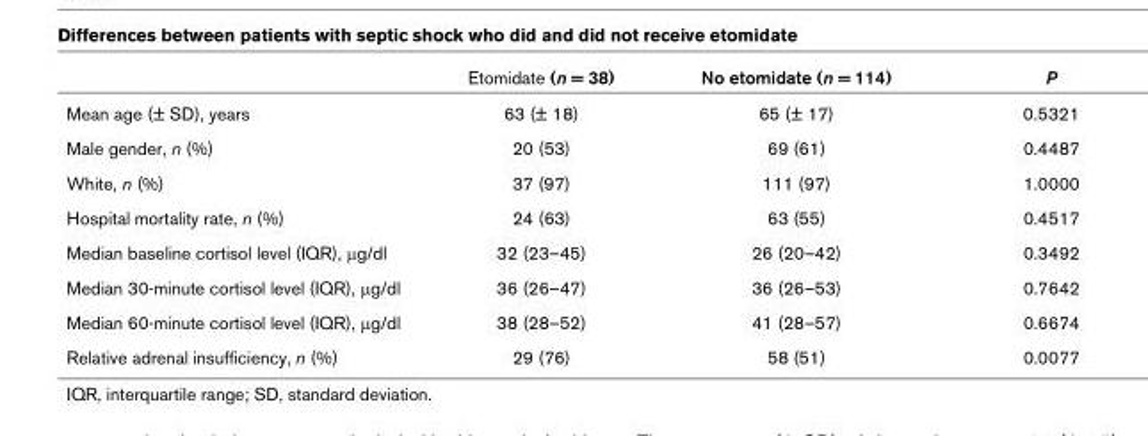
<table><thead><tr><td></td><td>Etomidate (n = 38)</td><td>No etomidate (n = 114)</td><td>P</td></tr></thead><tbody><tr><td>Mean age (± SD), years</td><td>63 (± 18)</td><td>65 (± 17)</td><td>0.5321</td></tr><tr><td>Male gender, n (%)</td><td>20 (53)</td><td>69 (61)</td><td>0.4487</td></tr><tr><td>White, n (%)</td><td>37 (97)</td><td>111 (97)</td><td>1.0000</td></tr><tr><td>Hospital mortality rate, n (%)</td><td>24 (63)</td><td>63 (55)</td><td>0.4517</td></tr><tr><td>Median baseline cortisol level (IQR), µg/dl</td><td>32 (23–45)</td><td>26 (20–42)</td><td>0.3492</td></tr><tr><td>Median 30-minute cortisol level (IQR), µg/dl</td><td>36 (26–47)</td><td>36 (26–53)</td><td>0.7642</td></tr><tr><td>Median 60-minute cortisol level (IQR), µg/dl</td><td>38 (28–52)</td><td>41 (28–57)</td><td>0.6674</td></tr><tr><td>Relative adrenal insufficiency, n (%)</td><td>29 (76)</td><td>58 (51)</td><td>0.0077</td></tr></tbody></table>